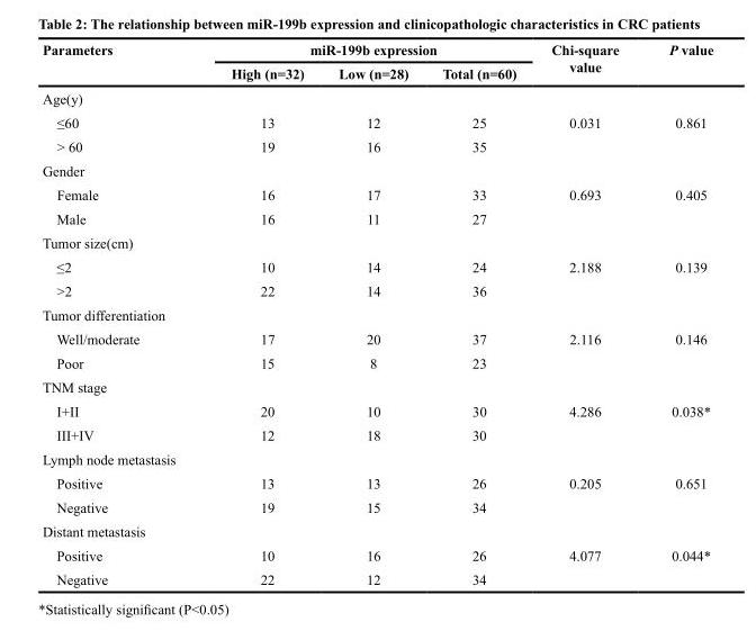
<table><thead><tr><td rowspan="2">Parameters</td><td colspan="3">miR-199b expression</td><td rowspan="2">Chi-square value</td><td rowspan="2">P value</td></tr><tr><td>High (n=32)</td><td>Low (n=28)</td><td>Total (n=60)</td></tr></thead><tbody><tr><td colspan="6">Age(y)</td></tr><tr><td>≤60</td><td>13</td><td>12</td><td>25</td><td>0.031</td><td>0.861</td></tr><tr><td>&gt; 60</td><td>19</td><td>16</td><td>35</td><td></td><td></td></tr><tr><td colspan="6">Gender</td></tr><tr><td>Female</td><td>16</td><td>17</td><td>33</td><td>0.693</td><td>0.405</td></tr><tr><td>Male</td><td>16</td><td>11</td><td>27</td><td></td><td></td></tr><tr><td colspan="6">Tumor size(cm)</td></tr><tr><td>≤2</td><td>10</td><td>14</td><td>24</td><td>2.188</td><td>0.139</td></tr><tr><td>&gt;2</td><td>22</td><td>14</td><td>36</td><td></td><td></td></tr><tr><td colspan="6">Tumor differentiation</td></tr><tr><td>Well/moderate</td><td>17</td><td>20</td><td>37</td><td>2.116</td><td>0.146</td></tr><tr><td>Poor</td><td>15</td><td>8</td><td>23</td><td></td><td></td></tr><tr><td colspan="6">TNM stage</td></tr><tr><td>I+II</td><td>20</td><td>10</td><td>30</td><td>4.286</td><td>0.038*</td></tr><tr><td>III+IV</td><td>12</td><td>18</td><td>30</td><td></td><td></td></tr><tr><td colspan="6">Lymph node metastasis</td></tr><tr><td>Positive</td><td>13</td><td>13</td><td>26</td><td>0.205</td><td>0.651</td></tr><tr><td>Negative</td><td>19</td><td>15</td><td>34</td><td></td><td></td></tr><tr><td colspan="6">Distant metastasis</td></tr><tr><td>Positive</td><td>10</td><td>16</td><td>26</td><td>4.077</td><td>0.044*</td></tr><tr><td>Negative</td><td>22</td><td>12</td><td>34</td><td></td><td></td></tr></tbody></table>